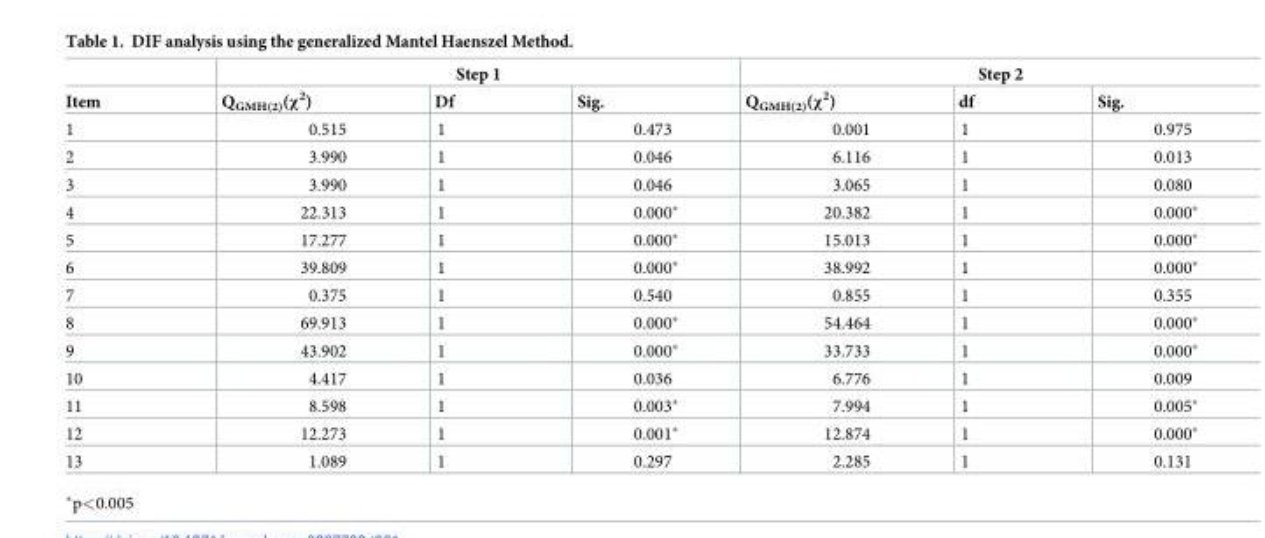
<table><thead><tr><td rowspan="2">Item</td><td colspan="3">Step 1</td><td colspan="3">Step 2</td></tr><tr><td>Q<sub>GMH(2)</sub>(χ<sup>2</sup>)</td><td>Df</td><td>Sig.</td><td>Q<sub>GMH(2)</sub>(χ<sup>2</sup>)</td><td>df</td><td>Sig.</td></tr></thead><tbody><tr><td>1</td><td>0.515</td><td>1</td><td>0.473</td><td>0.001</td><td>1</td><td>0.975</td></tr><tr><td>2</td><td>3.990</td><td>1</td><td>0.046</td><td>6.116</td><td>1</td><td>0.013</td></tr><tr><td>3</td><td>3.990</td><td>1</td><td>0.046</td><td>3.065</td><td>1</td><td>0.080</td></tr><tr><td>4</td><td>22.313</td><td>1</td><td>0.000*</td><td>20.382</td><td>1</td><td>0.000*</td></tr><tr><td>5</td><td>17.277</td><td>1</td><td>0.000*</td><td>15.013</td><td>1</td><td>0.000*</td></tr><tr><td>6</td><td>39.809</td><td>1</td><td>0.000*</td><td>38.992</td><td>1</td><td>0.000*</td></tr><tr><td>7</td><td>0.375</td><td>1</td><td>0.540</td><td>0.855</td><td>1</td><td>0.355</td></tr><tr><td>8</td><td>69.913</td><td>1</td><td>0.000*</td><td>54.464</td><td>1</td><td>0.000*</td></tr><tr><td>9</td><td>43.902</td><td>1</td><td>0.000*</td><td>33.733</td><td>1</td><td>0.000*</td></tr><tr><td>10</td><td>4.417</td><td>1</td><td>0.036</td><td>6.776</td><td>1</td><td>0.009</td></tr><tr><td>11</td><td>8.598</td><td>1</td><td>0.003*</td><td>7.994</td><td>1</td><td>0.005*</td></tr><tr><td>12</td><td>12.273</td><td>1</td><td>0.001*</td><td>12.874</td><td>1</td><td>0.000*</td></tr><tr><td>13</td><td>1.089</td><td>1</td><td>0.297</td><td>2.285</td><td>1</td><td>0.131</td></tr></tbody></table>